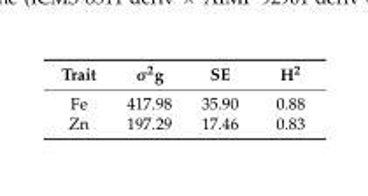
<table><thead><tr><td>Trait</td><td>σ<sup>2</sup>g</td><td>SE</td><td>H<sup>2</sup></td></tr></thead><tbody><tr><td>Fe</td><td>417.98</td><td>35.90</td><td>0.88</td></tr><tr><td>Zn</td><td>197.29</td><td>17.46</td><td>0.83</td></tr></tbody></table>